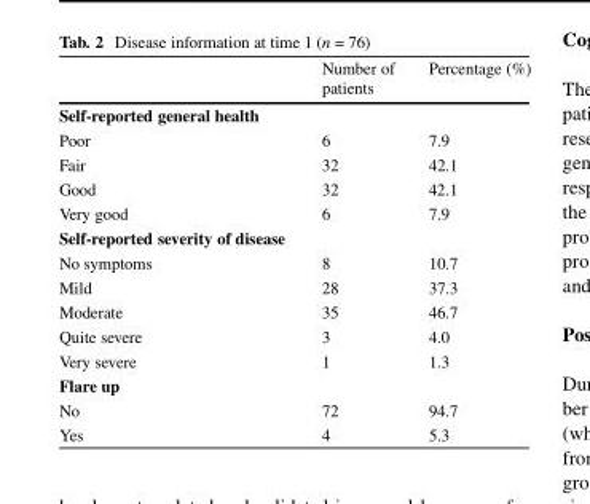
<table><thead><tr><td></td><td>Number of patients</td><td>Percentage (%)</td></tr></thead><tbody><tr><td colspan="3">Self-reported general health</td></tr><tr><td>Poor</td><td>6</td><td>7.9</td></tr><tr><td>Fair</td><td>32</td><td>42.1</td></tr><tr><td>Good</td><td>32</td><td>42.1</td></tr><tr><td>Very good</td><td>6</td><td>7.9</td></tr><tr><td colspan="3">Self-reported severity of disease</td></tr><tr><td>No symptoms</td><td>8</td><td>10.7</td></tr><tr><td>Mild</td><td>28</td><td>37.3</td></tr><tr><td>Moderate</td><td>35</td><td>46.7</td></tr><tr><td>Quite severe</td><td>3</td><td>4.0</td></tr><tr><td>Very severe</td><td>1</td><td>1.3</td></tr><tr><td colspan="3">Flare up</td></tr><tr><td>No</td><td>72</td><td>94.7</td></tr><tr><td>Yes</td><td>4</td><td>5.3</td></tr></tbody></table>